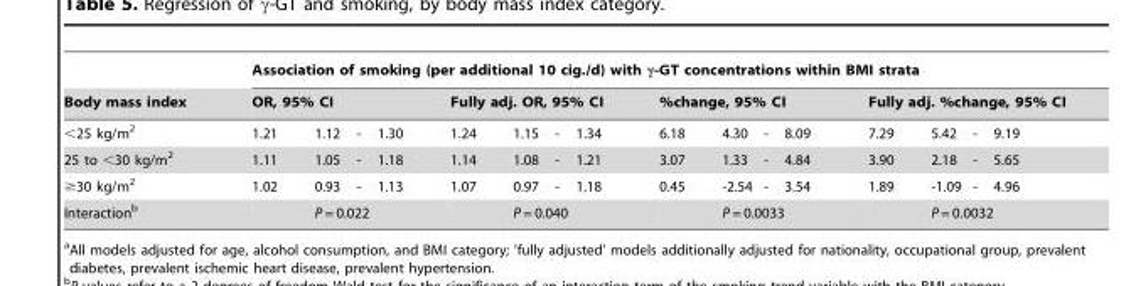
<table><thead><tr><td rowspan="3">Body mass index &lt;25 kg/m<sup>2</sup></td><td colspan="16">Association of smoking (per additional 10 cig./d) with γ-GT concentrations within BMI strata</td></tr><tr><td colspan="4">OR, 95% CI</td><td colspan="4">Fully adj. OR, 95% CI</td><td colspan="4">%change, 95% CI</td><td colspan="4">Fully adj. %change, 95% CI</td></tr><tr><td>1.21</td><td>1.12</td><td>-</td><td>1.30</td><td>1.24</td><td>1.15</td><td>-</td><td>1.34</td><td>6.18</td><td>4.30</td><td>-</td><td>8.09</td><td>7.29</td><td>5.42</td><td>-</td><td>9.19</td></tr></thead><tbody><tr><td>25 to &lt;30 kg/m<sup>2</sup></td><td>1.11</td><td>1.05</td><td>-</td><td>1.18</td><td>1.14</td><td>1.08</td><td>-</td><td>1.21</td><td>3.07</td><td>1.33</td><td>-</td><td>4.84</td><td>3.90</td><td>2.18</td><td>-</td><td>5.65</td></tr><tr><td>≥30 kg/m<sup>2</sup></td><td>1.02</td><td>0.93</td><td>-</td><td>1.13</td><td>1.07</td><td>0.97</td><td>-</td><td>1.18</td><td>0.45</td><td>-2.54</td><td>-</td><td>3.54</td><td>1.89</td><td>-1.09</td><td>-</td><td>4.96</td></tr><tr><td>Interaction<sup>b</sup></td><td></td><td colspan="3">P = 0.022</td><td></td><td colspan="3">P = 0.040</td><td></td><td colspan="3">P = 0.0033</td><td></td><td colspan="3">P = 0.0032</td></tr></tbody></table>